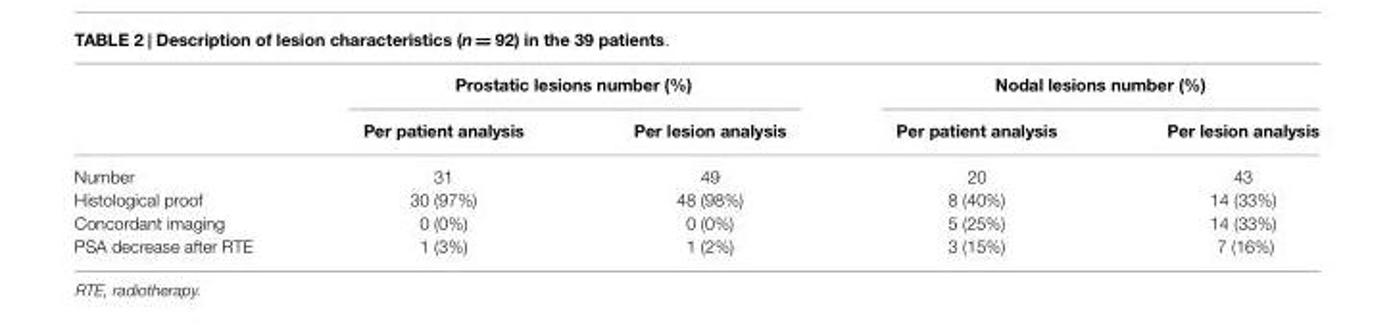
<table><thead><tr><td rowspan="2"></td><td colspan="2">Prostatic lesions number (%)</td><td colspan="2">Nodal lesions number (%)</td></tr><tr><td>Per patient analysis</td><td>Per lesion analysis</td><td>Per patient analysis</td><td>Per lesion analysis</td></tr></thead><tbody><tr><td>Number</td><td>31</td><td>49</td><td>20</td><td>43</td></tr><tr><td>Histological proof</td><td>30 (97%)</td><td>48 (98%)</td><td>8 (40%)</td><td>14 (33%)</td></tr><tr><td>Concordant imaging</td><td>0 (0%)</td><td>0 (0%)</td><td>5 (25%)</td><td>14 (33%)</td></tr><tr><td>PSA decrease after RTE</td><td>1 (3%)</td><td>1 (2%)</td><td>3 (15%)</td><td>7 (16%)</td></tr></tbody></table>